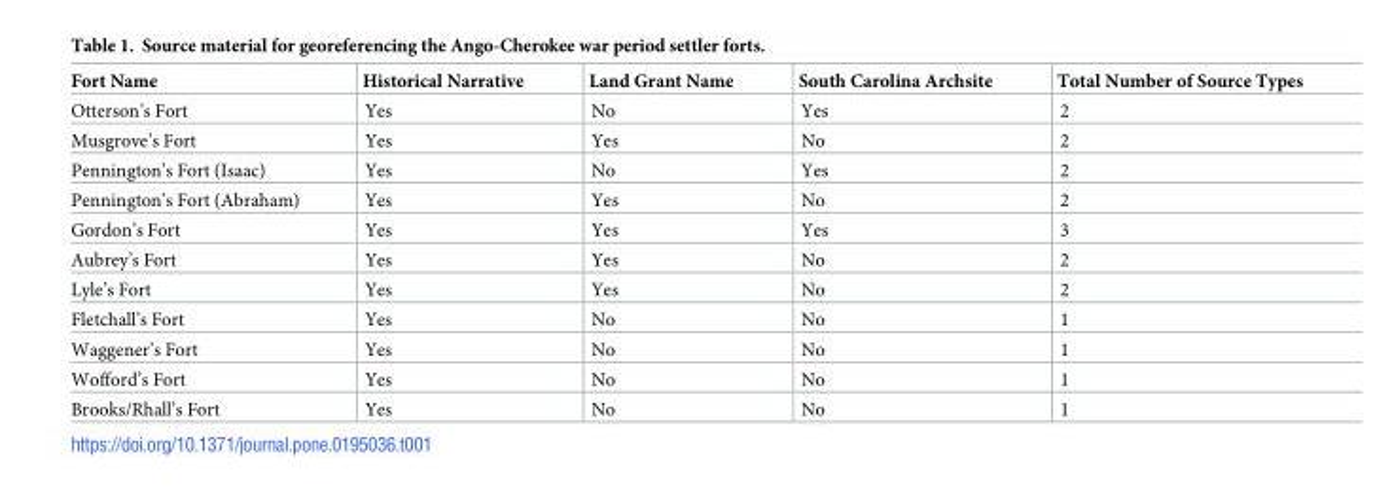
<table><thead><tr><td>Fort Name</td><td>Historical Narrative</td><td>Land Grant Name</td><td>South Carolina Archsite</td><td>Total Number of Source Types</td></tr></thead><tbody><tr><td>Otterson’s Fort</td><td>Yes</td><td>No</td><td>Yes</td><td>2</td></tr><tr><td>Musgrove’s Fort</td><td>Yes</td><td>Yes</td><td>No</td><td>2</td></tr><tr><td>Pennington’s Fort (Isaac)</td><td>Yes</td><td>No</td><td>Yes</td><td>2</td></tr><tr><td>Pennington’s Fort (Abraham)</td><td>Yes</td><td>Yes</td><td>No</td><td>2</td></tr><tr><td>Gordon’s Fort</td><td>Yes</td><td>Yes</td><td>Yes</td><td>3</td></tr><tr><td>Aubrey’s Fort</td><td>Yes</td><td>Yes</td><td>No</td><td>2</td></tr><tr><td>Lyle’s Fort</td><td>Yes</td><td>Yes</td><td>No</td><td>2</td></tr><tr><td>Fletchall’s Fort</td><td>Yes</td><td>No</td><td>No</td><td>1</td></tr><tr><td>Waggener’s Fort</td><td>Yes</td><td>No</td><td>No</td><td>1</td></tr><tr><td>Wofford’s Fort</td><td>Yes</td><td>No</td><td>No</td><td>1</td></tr><tr><td>Brooks/Rhall’s Fort</td><td>Yes</td><td>No</td><td>No</td><td>1</td></tr></tbody></table>